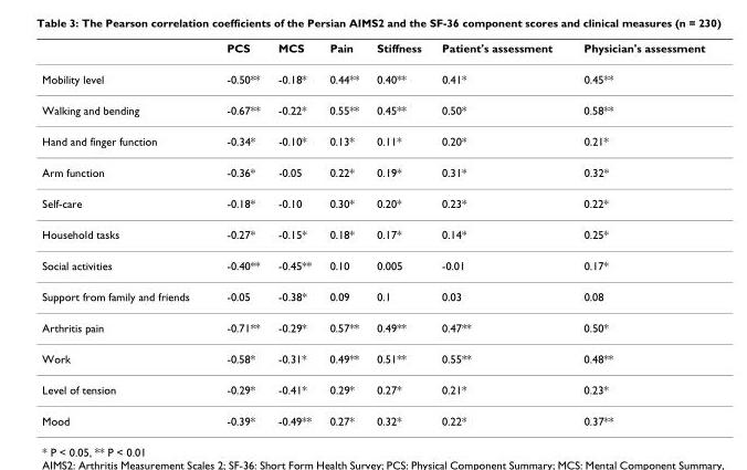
<table><thead><tr><td></td><td>PCS</td><td>MCS</td><td>Pain</td><td>Stiffness</td><td>Patient&#x27;s assessment</td><td>Physician&#x27;s assessment</td></tr></thead><tbody><tr><td>Mobility level</td><td>-0.50**</td><td>-0.18*</td><td>0.44**</td><td>0.40**</td><td>0.41*</td><td>0.45**</td></tr><tr><td>Walking and bending</td><td>-0.67**</td><td>-0.22*</td><td>0.55**</td><td>0.45**</td><td>0.50*</td><td>0.58**</td></tr><tr><td>Hand and finger function</td><td>-0.34*</td><td>-0.10*</td><td>0.13*</td><td>0.11*</td><td>0.20*</td><td>0.21*</td></tr><tr><td>Arm function</td><td>-0.36*</td><td>-0.05</td><td>0.22*</td><td>0.19*</td><td>0.31*</td><td>0.32*</td></tr><tr><td>Self-care</td><td>-0.18*</td><td>-0.10</td><td>0.30*</td><td>0.20*</td><td>0.23*</td><td>0.22*</td></tr><tr><td>Household tasks</td><td>-0.27*</td><td>-0.15*</td><td>0.18*</td><td>0.17*</td><td>0.14*</td><td>0.25*</td></tr><tr><td>Social activities</td><td>-0.40**</td><td>-0.45**</td><td>0.10</td><td>0.005</td><td>-0.01</td><td>0.17*</td></tr><tr><td>Support from family and friends</td><td>-0.05</td><td>-0.38*</td><td>0.09</td><td>0.1</td><td>0.03</td><td>0.08</td></tr><tr><td>Arthritis pain</td><td>-0.71**</td><td>-0.29*</td><td>0.57**</td><td>0.49**</td><td>0.47**</td><td>0.50*</td></tr><tr><td>Work</td><td>-0.58*</td><td>-0.31*</td><td>0.49**</td><td>0.51**</td><td>0.55**</td><td>0.48**</td></tr><tr><td>Level of tension</td><td>-0.29*</td><td>-0.41*</td><td>0.29*</td><td>0.27*</td><td>0.21*</td><td>0.23*</td></tr><tr><td>Mood</td><td>-0.39*</td><td>-0.49**</td><td>0.27*</td><td>0.32*</td><td>0.22*</td><td>0.37**</td></tr></tbody></table>